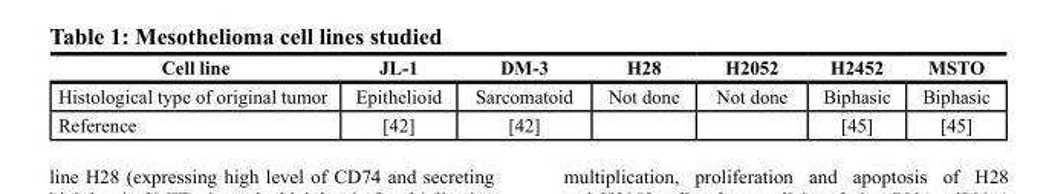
<table><thead><tr><td>cell line</td><td>Jl-1</td><td>dM-3</td><td>H28</td><td>H2052</td><td>H2452</td><td>Msto</td></tr></thead><tbody><tr><td>Histological type of original tumor</td><td>Epithelioid</td><td>Sarcomatoid</td><td>Not done</td><td>Not done</td><td>Biphasic</td><td>Biphasic</td></tr><tr><td>Reference</td><td>[42]</td><td>[42]</td><td></td><td></td><td>[45]</td><td>[45]</td></tr></tbody></table>